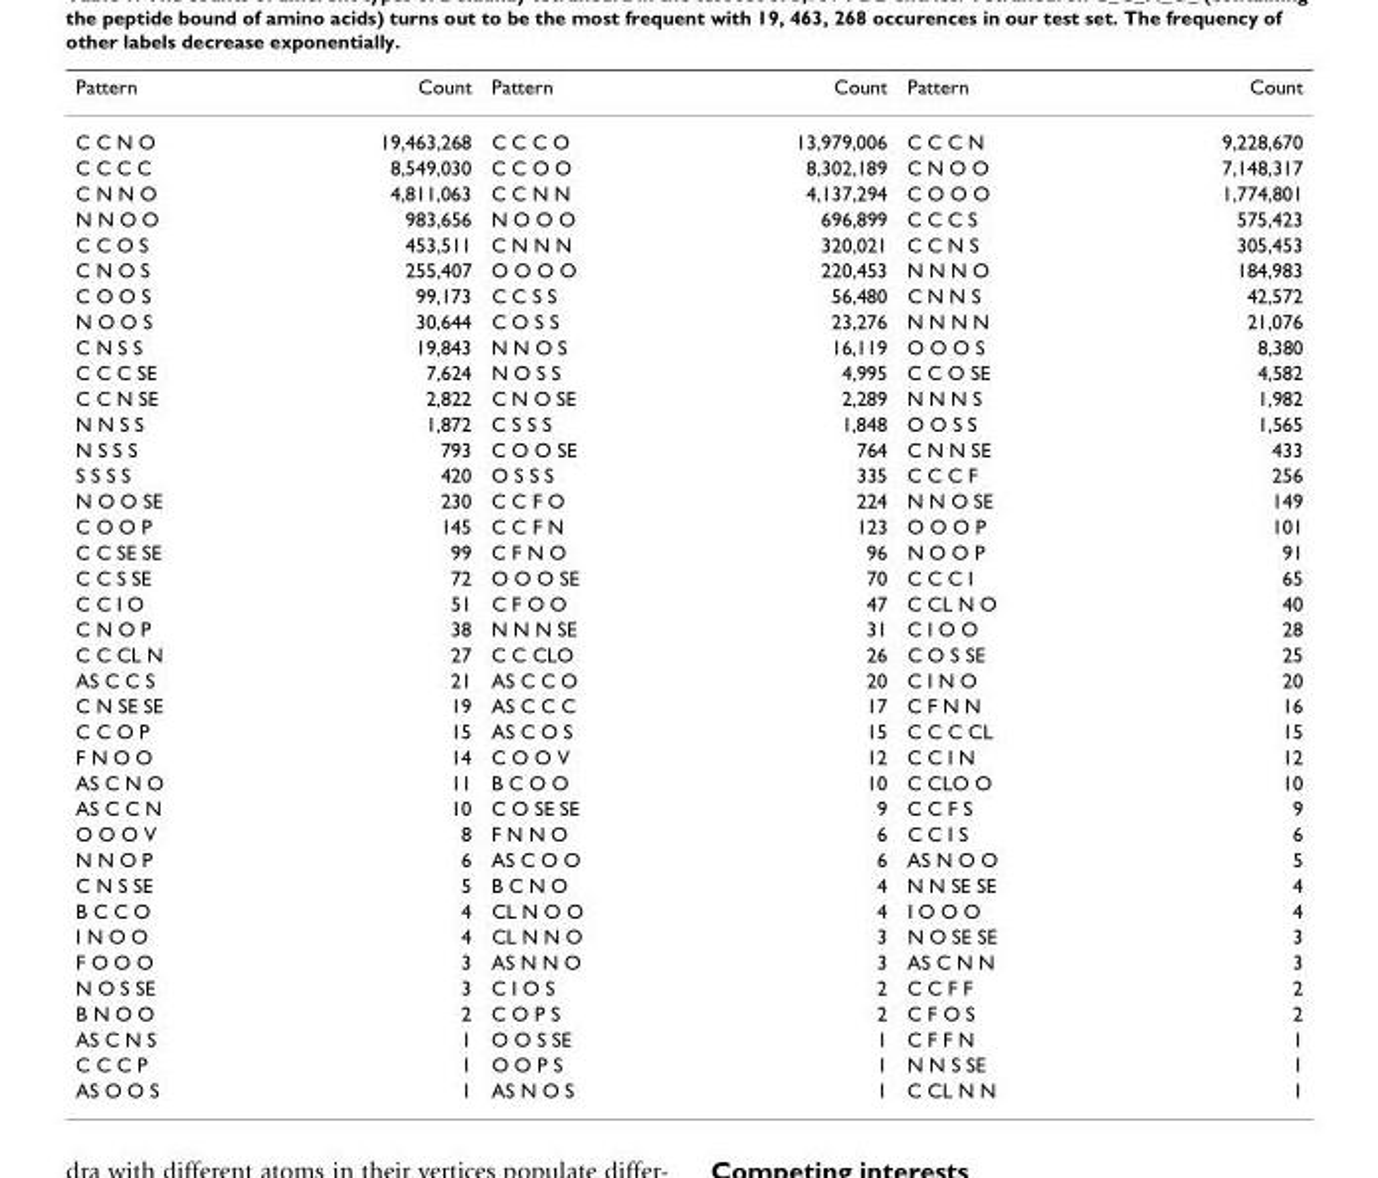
<table><thead><tr><td>Pattern</td><td>Count</td><td>Pattern</td><td>Count</td><td>Pattern</td><td>Count</td></tr></thead><tbody><tr><td>C C N O</td><td>19,463,268</td><td>C C C O</td><td>13,979,006</td><td>C C C N</td><td>9,228,670</td></tr><tr><td>C C C C</td><td>8,549,030</td><td>C C O O</td><td>8,302,189</td><td>C N O O</td><td>7,148,317</td></tr><tr><td>C N N O</td><td>4,811,063</td><td>C C N N</td><td>4,137,294</td><td>C O O O</td><td>1,774,801</td></tr><tr><td>N N O O</td><td>983,656</td><td>N O O O</td><td>696,899</td><td>C C C S</td><td>575,423</td></tr><tr><td>C C O S</td><td>453,511</td><td>C N N N</td><td>320,021</td><td>C C N S</td><td>305,453</td></tr><tr><td>C N O S</td><td>255,407</td><td>O O O O</td><td>220,453</td><td>N N N O</td><td>184,983</td></tr><tr><td>C O O S</td><td>99,173</td><td>C C S S</td><td>56,480</td><td>C N N S</td><td>42,572</td></tr><tr><td>N O O S</td><td>30,644</td><td>C O S S</td><td>23,276</td><td>N N N N</td><td>21,076</td></tr><tr><td>C N S S</td><td>19,843</td><td>N N O S</td><td>16,119</td><td>O O O S</td><td>8,380</td></tr><tr><td>C C C SE</td><td>7,624</td><td>N O S S</td><td>4,995</td><td>C C O SE</td><td>4,582</td></tr><tr><td>C C N SE</td><td>2,822</td><td>C N O SE</td><td>2,289</td><td>N N N S</td><td>1,982</td></tr><tr><td>N N S S</td><td>1,872</td><td>C S S S</td><td>1,848</td><td>O O S S</td><td>1,565</td></tr><tr><td>N S S S</td><td>793</td><td>C O O SE</td><td>764</td><td>C N N SE</td><td>433</td></tr><tr><td>S S S S</td><td>420</td><td>O S S S</td><td>335</td><td>C C C F</td><td>256</td></tr><tr><td>N O O SE</td><td>230</td><td>C C F O</td><td>224</td><td>N N O SE</td><td>149</td></tr><tr><td>C O O P</td><td>145</td><td>C C F N</td><td>123</td><td>O O O P</td><td>101</td></tr><tr><td>C C SE SE</td><td>99</td><td>C F N O</td><td>96</td><td>N O O P</td><td>91</td></tr><tr><td>C C S SE</td><td>72</td><td>O O O SE</td><td>70</td><td>C C C I</td><td>65</td></tr><tr><td>C C I O</td><td>51</td><td>C F O O</td><td>47</td><td>C CL N O</td><td>40</td></tr><tr><td>C N O P</td><td>38</td><td>N N N SE</td><td>31</td><td>C I O O</td><td>28</td></tr><tr><td>C C CL N</td><td>27</td><td>C C CLO</td><td>26</td><td>C O S SE</td><td>25</td></tr><tr><td>AS C C S</td><td>21</td><td>AS C C O</td><td>20</td><td>C I N O</td><td>20</td></tr><tr><td>C N SE SE</td><td>19</td><td>AS C C C</td><td>17</td><td>C F N N</td><td>16</td></tr><tr><td>C C O P</td><td>15</td><td>AS C O S</td><td>15</td><td>C C C CL</td><td>15</td></tr><tr><td>F N O O</td><td>14</td><td>C O O V</td><td>12</td><td>C C I N</td><td>12</td></tr><tr><td>AS C N O</td><td>11</td><td>B C O O</td><td>10</td><td>C CLO O</td><td>10</td></tr><tr><td>AS C C N</td><td>10</td><td>C O SE SE</td><td>9</td><td>C C F S</td><td>9</td></tr><tr><td>O O O V</td><td>8</td><td>F N N O</td><td>6</td><td>C C I S</td><td>6</td></tr><tr><td>N N O P</td><td>6</td><td>AS C O O</td><td>6</td><td>AS N O O</td><td>5</td></tr><tr><td>C N S SE</td><td>5</td><td>B C N O</td><td>4</td><td>N N SE SE</td><td>4</td></tr><tr><td>B C C O</td><td>4</td><td>CL N O O</td><td>4</td><td>I O O O</td><td>4</td></tr><tr><td>I N O O</td><td>4</td><td>CL N N O</td><td>3</td><td>N O SE SE</td><td>3</td></tr><tr><td>F O O O</td><td>3</td><td>AS N N O</td><td>3</td><td>AS C N N</td><td>3</td></tr><tr><td>N O S SE</td><td>3</td><td>C I O S</td><td>2</td><td>C C F F</td><td>2</td></tr><tr><td>B N O O</td><td>2</td><td>C O P S</td><td>2</td><td>C F O S</td><td>2</td></tr><tr><td>AS C N S</td><td>1</td><td>O O S SE</td><td>1</td><td>C F F N</td><td>1</td></tr><tr><td>C C C P</td><td>1</td><td>O O P S</td><td>1</td><td>N N S SE</td><td>1</td></tr><tr><td>AS O O S</td><td>1</td><td>AS N O S</td><td>1</td><td>C CL N N</td><td>1</td></tr></tbody></table>